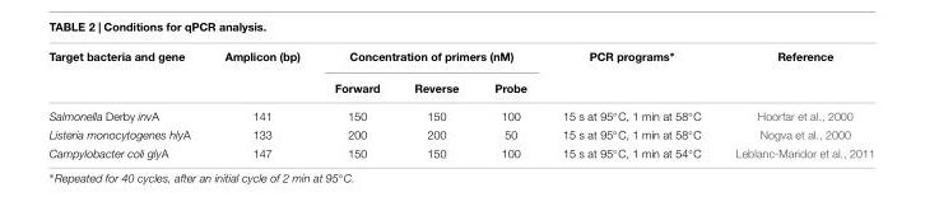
<table><thead><tr><td rowspan="2">Target bacteria and gene</td><td rowspan="2">Amplicon (bp)</td><td colspan="3">Concentration of primers (nM)</td><td rowspan="2">PCR programs∗</td><td rowspan="2">Reference</td></tr><tr><td>Forward</td><td>Reverse</td><td>Probe</td></tr></thead><tbody><tr><td>Salmonella Derby invA</td><td>141</td><td>150</td><td>150</td><td>100</td><td>15 s at 95◦C, 1 min at 58◦C</td><td>Hoorfar et al., 2000</td></tr><tr><td>Listeria monocytogenes hlyA</td><td>133</td><td>200</td><td>200</td><td>50</td><td>15 s at 95◦C, 1 min at 58◦C</td><td>Nogva et al., 2000</td></tr><tr><td>Campylobacter coli glyA</td><td>147</td><td>150</td><td>150</td><td>100</td><td>15 s at 95◦C, 1 min at 54◦C</td><td>Leblanc-Maridor et al., 2011</td></tr></tbody></table>